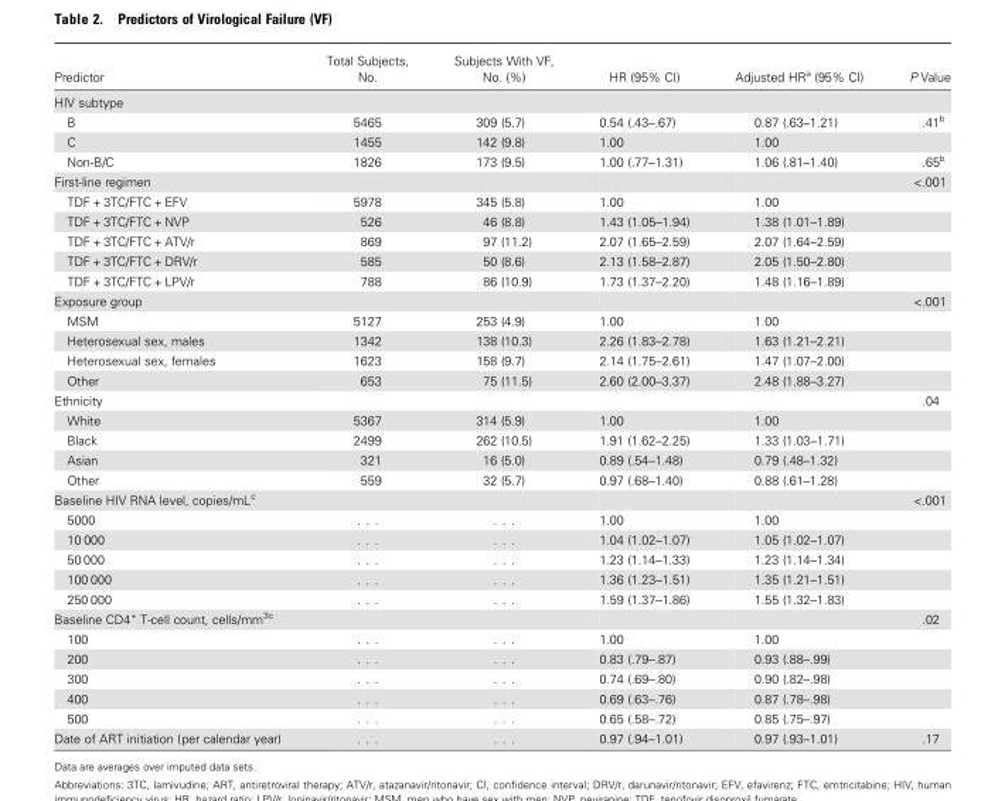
<table><thead><tr><td>Predictor</td><td>Total Subjects, No.</td><td>Subjects With VF, No. (%)</td><td>HR (95% CI)</td><td>Adjusted HR<sup>a</sup> (95% CI)</td><td>P Value</td></tr></thead><tbody><tr><td colspan="6">HIV subtype</td></tr><tr><td>B</td><td>5465</td><td>309 (5.7)</td><td>0.54 (.43–.67)</td><td>0.87 (.63–1.21)</td><td>.41<sup>b</sup></td></tr><tr><td>C</td><td>1455</td><td>142 (9.8)</td><td>1.00</td><td>1.00</td><td></td></tr><tr><td>Non-B/C</td><td>1826</td><td>173 (9.5)</td><td>1.00 (.77–1.31)</td><td>1.06 (.81–1.40)</td><td>.65<sup>b</sup></td></tr><tr><td>First-line regimen</td><td></td><td></td><td></td><td></td><td>&lt;.001</td></tr><tr><td>TDF + 3TC/FTC + EFV</td><td>5978</td><td>345 (5.8)</td><td>1.00</td><td>1.00</td><td></td></tr><tr><td>TDF + 3TC/FTC + NVP</td><td>526</td><td>46 (8.8)</td><td>1.43 (1.05–1.94)</td><td>1.38 (1.01–1.89)</td><td></td></tr><tr><td>TDF + 3TC/FTC + ATV/r</td><td>869</td><td>97 (11.2)</td><td>2.07 (1.65–2.59)</td><td>2.07 (1.64–2.59)</td><td></td></tr><tr><td>TDF + 3TC/FTC + DRV/r</td><td>585</td><td>50 (8.6)</td><td>2.13 (1.58–2.87)</td><td>2.05 (1.50–2.80)</td><td></td></tr><tr><td>TDF + 3TC/FTC + LPV/r</td><td>788</td><td>86 (10.9)</td><td>1.73 (1.37–2.20)</td><td>1.48 (1.16–1.89)</td><td></td></tr><tr><td>Exposure group</td><td></td><td></td><td></td><td></td><td>&lt;.001</td></tr><tr><td>MSM</td><td>5127</td><td>253 (4.9)</td><td>1.00</td><td>1.00</td><td></td></tr><tr><td>Heterosexual sex, males</td><td>1342</td><td>138 (10.3)</td><td>2.26 (1.83–2.78)</td><td>1.63 (1.21–2.21)</td><td></td></tr><tr><td>Heterosexual sex, females</td><td>1623</td><td>158 (9.7)</td><td>2.14 (1.75–2.61)</td><td>1.47 (1.07–2.00)</td><td></td></tr><tr><td>Other</td><td>653</td><td>75 (11.5)</td><td>2.60 (2.00–3.37)</td><td>2.48 (1.88–3.27)</td><td></td></tr><tr><td>Ethnicity</td><td></td><td></td><td></td><td></td><td>.04</td></tr><tr><td>White</td><td>5367</td><td>314 (5.9)</td><td>1.00</td><td>1.00</td><td></td></tr><tr><td>Black</td><td>2499</td><td>262 (10.5)</td><td>1.91 (1.62–2.25)</td><td>1.33 (1.03–1.71)</td><td></td></tr><tr><td>Asian</td><td>321</td><td>16 (5.0)</td><td>0.89 (.54–1.48)</td><td>0.79 (.48–1.32)</td><td></td></tr><tr><td>Other</td><td>559</td><td>32 (5.7)</td><td>0.97 (.68–1.40)</td><td>0.88 (.61–1.28)</td><td></td></tr><tr><td>Baseline HIV RNA level, copies/mL<sup>c</sup></td><td></td><td></td><td></td><td></td><td>&lt;.001</td></tr><tr><td>5000</td><td>. . .</td><td>. . .</td><td>1.00</td><td>1.00</td><td></td></tr><tr><td>10 000</td><td>. . .</td><td>. . .</td><td>1.04 (1.02–1.07)</td><td>1.05 (1.02–1.07)</td><td></td></tr><tr><td>50 000</td><td>. . .</td><td>. . .</td><td>1.23 (1.14–1.33)</td><td>1.23 (1.14–1.34)</td><td></td></tr><tr><td>100 000</td><td>. . .</td><td>. . .</td><td>1.36 (1.23–1.51)</td><td>1.35 (1.21–1.51)</td><td></td></tr><tr><td>250 000</td><td>. . .</td><td>. . .</td><td>1.59 (1.37–1.86)</td><td>1.55 (1.32–1.83)</td><td></td></tr><tr><td>Baseline CD4<sup>+</sup> T-cell count, cells/mm<sup>3c</sup></td><td></td><td></td><td></td><td></td><td>.02</td></tr><tr><td>100</td><td>. . .</td><td>. . .</td><td>1.00</td><td>1.00</td><td></td></tr><tr><td>200</td><td>. . .</td><td>. . .</td><td>0.83 (.79–.87)</td><td>0.93 (.88–.99)</td><td></td></tr><tr><td>300</td><td>. . .</td><td>. . .</td><td>0.74 (.69–.80)</td><td>0.90 (.82–.98)</td><td></td></tr><tr><td>400</td><td>. . .</td><td>. . .</td><td>0.69 (.63–.76)</td><td>0.87 (.78–.98)</td><td></td></tr><tr><td>500</td><td>. . .</td><td>. . .</td><td>0.65 (.58–.72)</td><td>0.85 (.75–.97)</td><td></td></tr><tr><td>Date of ART initiation (per calendar year)</td><td>. . .</td><td>. . .</td><td>0.97 (.94–1.01)</td><td>0.97 (.93–1.01)</td><td>.17</td></tr></tbody></table>